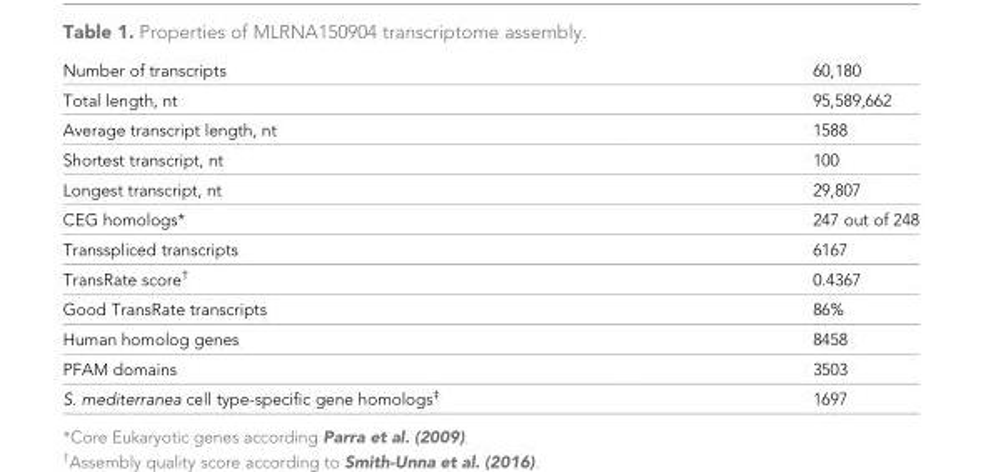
<table><tbody><tr><td>Number of transcripts</td><td>60,180</td></tr><tr><td>Total length, nt</td><td>95,589,662</td></tr><tr><td>Average transcript length, nt</td><td>1588</td></tr><tr><td>Shortest transcript, nt</td><td>100</td></tr><tr><td>Longest transcript, nt</td><td>29,807</td></tr><tr><td>CEG homologs*</td><td>247 out of 248</td></tr><tr><td>Transspliced transcripts</td><td>6167</td></tr><tr><td>TransRate score<sup>†</sup></td><td>0.4367</td></tr><tr><td>Good TransRate transcripts</td><td>86%</td></tr><tr><td>Human homolog genes</td><td>8458</td></tr><tr><td>PFAM domains</td><td>3503</td></tr><tr><td>S. mediterranea cell type-specific gene homologs<sup>‡</sup></td><td>1697</td></tr></tbody></table>